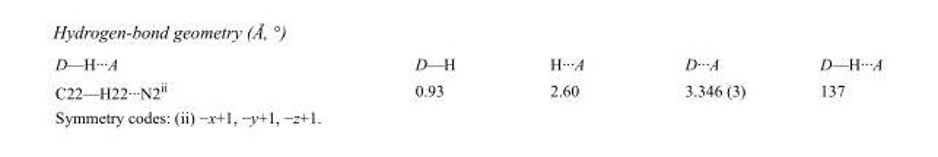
<table><tbody><tr><td>D—H···A</td><td>D—H</td><td>H···A</td><td>D···A</td><td>D—H···A</td></tr><tr><td>C22—H22···N2<sup>ii</sup></td><td>0.93</td><td>2.60</td><td>3.346 (3)</td><td>137</td></tr></tbody></table>